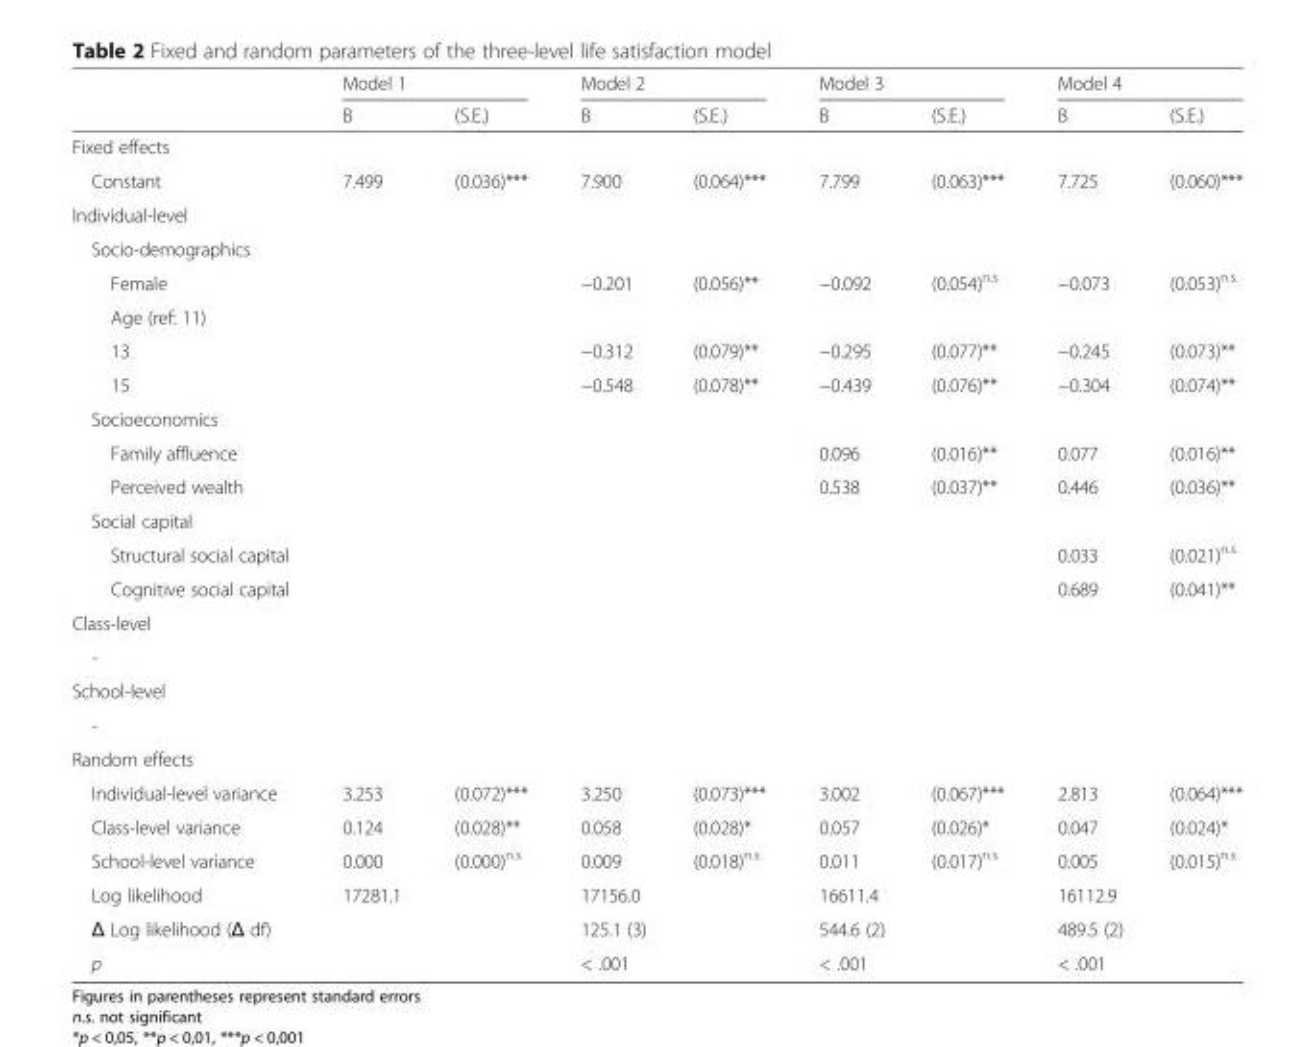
<table><thead><tr><td rowspan="2"></td><td colspan="2">Model 1</td><td colspan="2">Model 2</td><td colspan="2">Model 3</td><td colspan="2">Model 4</td></tr><tr><td>B</td><td>(S.E.)</td><td>B</td><td>(S.E.)</td><td>B</td><td>(S.E.)</td><td>B</td><td>(S.E.)</td></tr></thead><tbody><tr><td colspan="9">Fixed effects</td></tr><tr><td>Constant</td><td>7.499</td><td>(0.036)***</td><td>7.900</td><td>(0.064)***</td><td>7.799</td><td>(0.063)***</td><td>7.725</td><td>(0.060)***</td></tr><tr><td colspan="9">Individual-level</td></tr><tr><td colspan="9">Socio-demographics</td></tr><tr><td>Female</td><td></td><td></td><td>−0.201</td><td>(0.056)**</td><td>−0.092</td><td>(0.054)<sup>n.s.</sup></td><td>−0.073</td><td>(0.053)<sup>n.s.</sup></td></tr><tr><td colspan="9">Age (ref: 11)</td></tr><tr><td>13</td><td></td><td></td><td>−0.312</td><td>(0.079)**</td><td>−0.295</td><td>(0.077)**</td><td>−0.245</td><td>(0.073)**</td></tr><tr><td>15</td><td></td><td></td><td>−0.548</td><td>(0.078)**</td><td>−0.439</td><td>(0.076)**</td><td>−0.304</td><td>(0.074)**</td></tr><tr><td colspan="9">Socioeconomics</td></tr><tr><td>Family affluence</td><td></td><td></td><td></td><td></td><td>0.096</td><td>(0.016)**</td><td>0.077</td><td>(0.016)**</td></tr><tr><td>Perceived wealth</td><td></td><td></td><td></td><td></td><td>0.538</td><td>(0.037)**</td><td>0.446</td><td>(0.036)**</td></tr><tr><td colspan="9">Social capital</td></tr><tr><td>Structural social capital</td><td></td><td></td><td></td><td></td><td></td><td></td><td>0.033</td><td>(0.021)<sup>n.s.</sup></td></tr><tr><td>Cognitive social capital</td><td></td><td></td><td></td><td></td><td></td><td></td><td>0.689</td><td>(0.041)**</td></tr><tr><td colspan="9">Class-level</td></tr><tr><td colspan="9">-</td></tr><tr><td colspan="9">School-level</td></tr><tr><td colspan="9">-</td></tr><tr><td colspan="9">Random effects</td></tr><tr><td>Individual-level variance</td><td>3.253</td><td>(0.072)***</td><td>3.250</td><td>(0.073)***</td><td>3.002</td><td>(0.067)***</td><td>2.813</td><td>(0.064)***</td></tr><tr><td>Class-level variance</td><td>0.124</td><td>(0.028)**</td><td>0.058</td><td>(0.028)*</td><td>0.057</td><td>(0.026)*</td><td>0.047</td><td>(0.024)*</td></tr><tr><td>School-level variance</td><td>0.000</td><td>(0.000)<sup>n.s.</sup></td><td>0.009</td><td>(0.018)<sup>n.s.</sup></td><td>0.011</td><td>(0.017)<sup>n.s.</sup></td><td>0.005</td><td>(0.015)<sup>n.s.</sup></td></tr><tr><td>Log likelihood</td><td>17281.1</td><td></td><td>17156.0</td><td></td><td>16611.4</td><td></td><td>16112.9</td><td></td></tr><tr><td>Δ Log likelihood (Δ df)</td><td></td><td></td><td colspan="2">125.1 (3)</td><td colspan="2">544.6 (2)</td><td colspan="2">489.5 (2)</td></tr><tr><td>p</td><td></td><td></td><td>&lt; .001</td><td></td><td>&lt; .001</td><td></td><td>&lt; .001</td><td></td></tr></tbody></table>